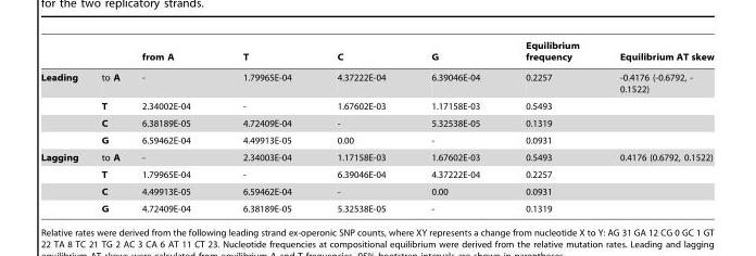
<table><thead><tr><td></td><td></td><td>from A</td><td>T</td><td>C</td><td>G</td><td>Equilibrium frequency</td><td>Equilibrium AT skew</td></tr></thead><tbody><tr><td rowspan="4">Leading</td><td>to A</td><td>-</td><td>1.79965E-04</td><td>4.37222E-04</td><td>6.39046E-04</td><td>0.2257</td><td>-0.4176 (-0.6792, - 0.1522)</td></tr><tr><td>T</td><td>2.34002E-04</td><td>-</td><td>1.67602E-03</td><td>1.17158E-03</td><td>0.5493</td><td></td></tr><tr><td>C</td><td>6.38189E-05</td><td>4.72409E-04</td><td>-</td><td>5.32538E-05</td><td>0.1319</td><td></td></tr><tr><td>G</td><td>6.59462E-04</td><td>4.49913E-05</td><td>0.00</td><td>-</td><td>0.0931</td><td></td></tr><tr><td rowspan="4">Lagging</td><td>to A</td><td>-</td><td>2.34003E-04</td><td>1.17158E-03</td><td>1.67602E-03</td><td>0.5493</td><td>0.4176 (0.6792, 0.1522)</td></tr><tr><td>T</td><td>1.79965E-04</td><td>-</td><td>6.39046E-04</td><td>4.37222E-04</td><td>0.2257</td><td></td></tr><tr><td>C</td><td>4.49913E-05</td><td>6.59462E-04</td><td>-</td><td>0.00</td><td>0.0931</td><td></td></tr><tr><td>G</td><td>4.72409E-04</td><td>6.38189E-05</td><td>5.32538E-05</td><td>-</td><td>0.1319</td><td></td></tr></tbody></table>